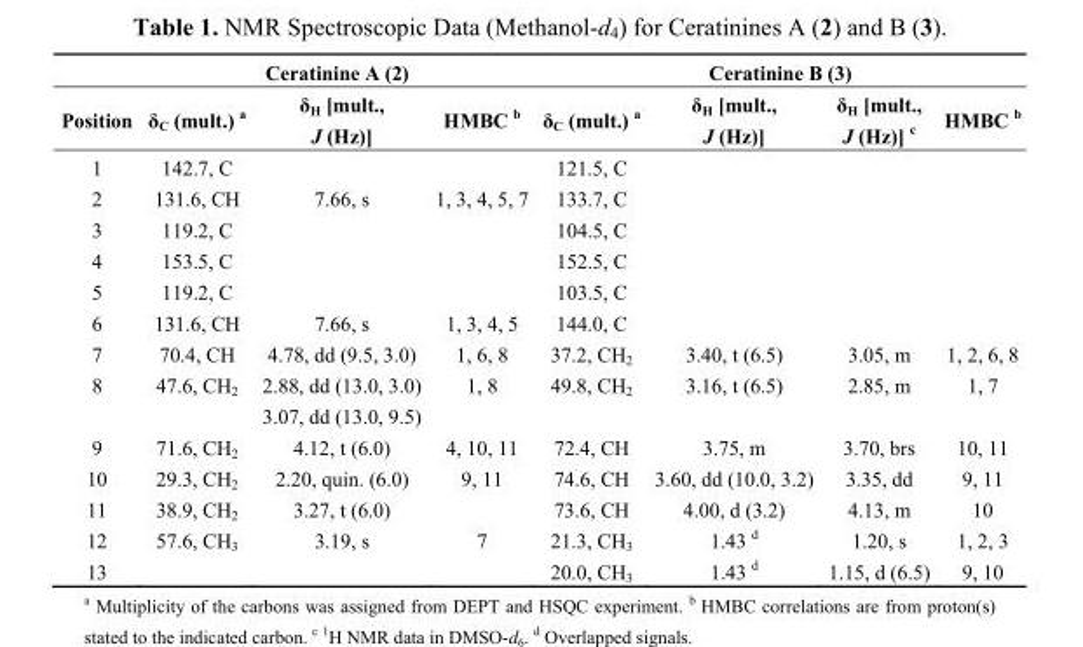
<table><thead><tr><td rowspan="2">Position</td><td colspan="3">Ceratinine A (2)</td><td colspan="4">Ceratinine B (3)</td></tr><tr><td>δ<sub>C</sub> (mult.) <sup>a</sup></td><td>δ<sub>H</sub> [mult., J (Hz)]</td><td>HMBC <sup>b</sup></td><td>δ<sub>C</sub> (mult.) <sup>a</sup></td><td>δ<sub>H</sub> [mult., J (Hz)]</td><td>δ<sub>H</sub> [mult., J (Hz)] <sup>c</sup></td><td>HMBC <sup>b</sup></td></tr></thead><tbody><tr><td>1</td><td>142.7, C</td><td></td><td></td><td>121.5, C</td><td></td><td></td><td></td></tr><tr><td>2</td><td>131.6, CH</td><td>7.66, s</td><td>1, 3, 4, 5, 7</td><td>133.7, C</td><td></td><td></td><td></td></tr><tr><td>3</td><td>119.2, C</td><td></td><td></td><td>104.5, C</td><td></td><td></td><td></td></tr><tr><td>4</td><td>153.5, C</td><td></td><td></td><td>152.5, C</td><td></td><td></td><td></td></tr><tr><td>5</td><td>119.2, C</td><td></td><td></td><td>103.5, C</td><td></td><td></td><td></td></tr><tr><td>6</td><td>131.6, CH</td><td>7.66, s</td><td>1, 3, 4, 5</td><td>144.0, C</td><td></td><td></td><td></td></tr><tr><td>7</td><td>70.4, CH</td><td>4.78, dd (9.5, 3.0)</td><td>1, 6, 8</td><td>37.2, CH<sub>2</sub></td><td>3.40, t (6.5)</td><td>3.05, m</td><td>1, 2, 6, 8</td></tr><tr><td>8</td><td>47.6, CH<sub>2</sub></td><td>2.88, dd (13.0, 3.0) 3.07, dd (13.0, 9.5)</td><td>1, 8</td><td>49.8, CH<sub>2</sub></td><td>3.16, t (6.5)</td><td>2.85, m</td><td>1, 7</td></tr><tr><td>9</td><td>71.6, CH<sub>2</sub></td><td>4.12, t (6.0)</td><td>4, 10, 11</td><td>72.4, CH</td><td>3.75, m</td><td>3.70, brs</td><td>10, 11</td></tr><tr><td>10</td><td>29.3, CH<sub>2</sub></td><td>2.20, quin. (6.0)</td><td>9, 11</td><td>74.6, CH</td><td>3.60, dd (10.0, 3.2)</td><td>3.35, dd</td><td>9, 11</td></tr><tr><td>11</td><td>38.9, CH<sub>2</sub></td><td>3.27, t (6.0)</td><td></td><td>73.6, CH</td><td>4.00, d (3.2)</td><td>4.13, m</td><td>10</td></tr><tr><td>12</td><td>57.6, CH<sub>3</sub></td><td>3.19, s</td><td>7</td><td>21.3, CH<sub>3</sub></td><td>1.43 <sup>d</sup></td><td>1.20, s</td><td>1, 2, 3</td></tr><tr><td>13</td><td></td><td></td><td></td><td>20.0, CH<sub>3</sub></td><td>1.43 <sup>d</sup></td><td>1.15, d (6.5)</td><td>9, 10</td></tr></tbody></table>